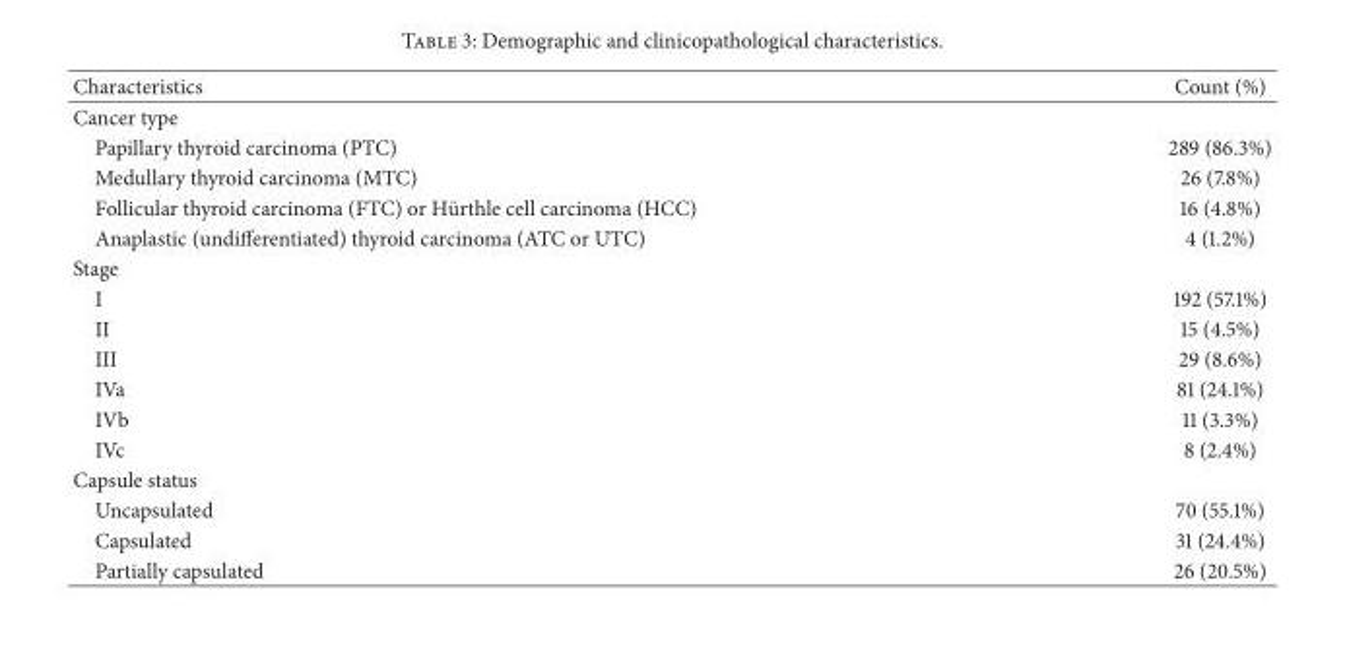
<table><thead><tr><td>Characteristics</td><td>Count (%)</td></tr></thead><tbody><tr><td colspan="2">Cancer type</td></tr><tr><td>Papillary thyroid carcinoma (PTC)</td><td>289 (86.3%)</td></tr><tr><td>Medullary thyroid carcinoma (MTC)</td><td>26 (7.8%)</td></tr><tr><td>Follicular thyroid carcinoma (FTC) or H¨urthle cell carcinoma (HCC)</td><td>16 (4.8%)</td></tr><tr><td>Anaplastic (undifferentiated) thyroid carcinoma (ATC or UTC)</td><td>4 (1.2%)</td></tr><tr><td colspan="2">Stage</td></tr><tr><td>I</td><td>192 (57.1%)</td></tr><tr><td>II</td><td>15 (4.5%)</td></tr><tr><td>III</td><td>29 (8.6%)</td></tr><tr><td>IVa</td><td>81 (24.1%)</td></tr><tr><td>IVb</td><td>11 (3.3%)</td></tr><tr><td>IVc</td><td>8 (2.4%)</td></tr><tr><td colspan="2">Capsule status</td></tr><tr><td>Uncapsulated</td><td>70 (55.1%)</td></tr><tr><td>Capsulated</td><td>31 (24.4%)</td></tr><tr><td>Partially capsulated</td><td>26 (20.5%)</td></tr></tbody></table>